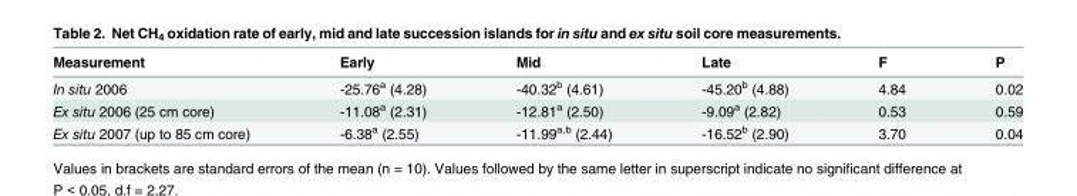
<table><thead><tr><td>Measurement</td><td>Early</td><td>Mid</td><td>Late</td><td>F</td><td>P</td></tr></thead><tbody><tr><td>In situ 2006</td><td>-25.76<sup>a</sup> (4.28)</td><td>-40.32<sup>b</sup> (4.61)</td><td>-45.20<sup>b</sup> (4.88)</td><td>4.84</td><td>0.02</td></tr><tr><td>Ex situ 2006 (25 cm core)</td><td>-11.08<sup>a</sup> (2.31)</td><td>-12.81<sup>a</sup> (2.50)</td><td>-9.09<sup>a</sup> (2.82)</td><td>0.53</td><td>0.59</td></tr><tr><td>Ex situ 2007 (up to 85 cm core)</td><td>-6.38<sup>a</sup> (2.55)</td><td>-11.99<sup>a,b</sup> (2.44)</td><td>-16.52<sup>b</sup> (2.90)</td><td>3.70</td><td>0.04</td></tr></tbody></table>